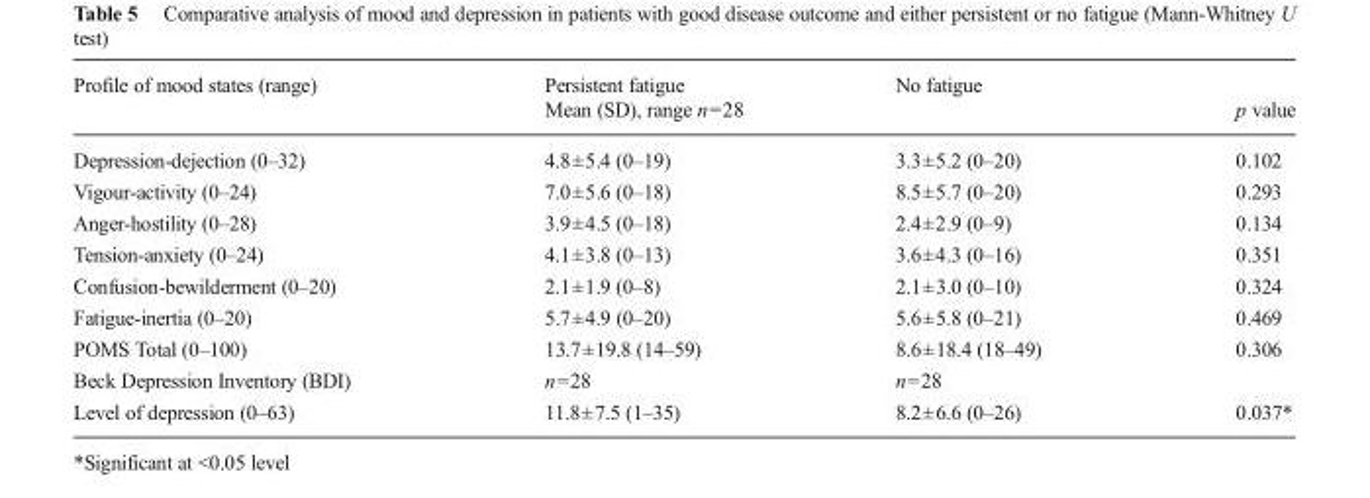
<table><thead><tr><td rowspan="2">Profile of mood states (range)</td><td>Persistent fatigue</td><td>No fatigue</td><td rowspan="2">p value</td></tr><tr><td colspan="2">Mean (SD), range n=28</td></tr></thead><tbody><tr><td>Depression-dejection (0–32)</td><td>4.8±5.4 (0–19)</td><td>3.3±5.2 (0–20)</td><td>0.102</td></tr><tr><td>Vigour-activity (0–24)</td><td>7.0±5.6 (0–18)</td><td>8.5±5.7 (0–20)</td><td>0.293</td></tr><tr><td>Anger-hostility (0–28)</td><td>3.9±4.5 (0–18)</td><td>2.4±2.9 (0–9)</td><td>0.134</td></tr><tr><td>Tension-anxiety (0–24)</td><td>4.1±3.8 (0–13)</td><td>3.6±4.3 (0–16)</td><td>0.351</td></tr><tr><td>Confusion-bewilderment (0–20)</td><td>2.1±1.9 (0–8)</td><td>2.1±3.0 (0–10)</td><td>0.324</td></tr><tr><td>Fatigue-inertia (0–20)</td><td>5.7±4.9 (0–20)</td><td>5.6±5.8 (0–21)</td><td>0.469</td></tr><tr><td>POMS Total (0–100)</td><td>13.7±19.8 (14–59)</td><td>8.6±18.4 (18–49)</td><td>0.306</td></tr><tr><td>Beck Depression Inventory (BDI)</td><td>n=28</td><td>n=28</td><td></td></tr><tr><td>Level of depression (0–63)</td><td>11.8±7.5 (1–35)</td><td>8.2±6.6 (0–26)</td><td>0.037*</td></tr></tbody></table>